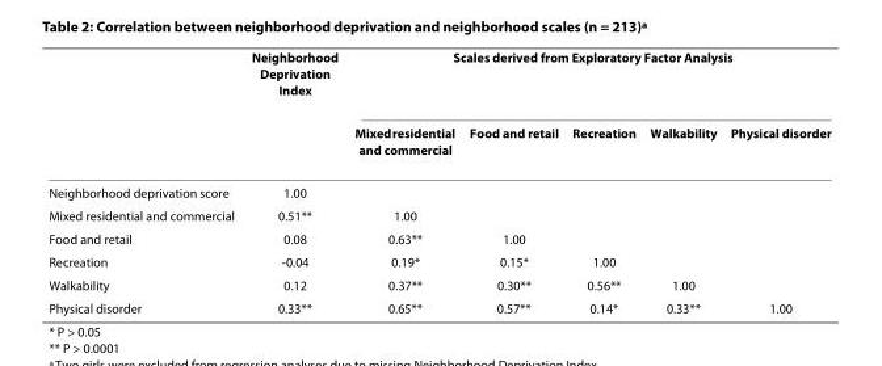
<table><thead><tr><td rowspan="2"></td><td rowspan="2">Neighborhood Deprivation Index</td><td colspan="5">Scales derived from Exploratory Factor Analysis</td></tr><tr><td>Mixed residential and commercial</td><td>Food and retail</td><td>Recreation</td><td>Walkability</td><td>Physical disorder</td></tr></thead><tbody><tr><td>Neighborhood deprivation score</td><td>1.00</td><td></td><td></td><td></td><td></td><td></td></tr><tr><td>Mixed residential and commercial</td><td>0.51**</td><td>1.00</td><td></td><td></td><td></td><td></td></tr><tr><td>Food and retail</td><td>0.08</td><td>0.63**</td><td>1.00</td><td></td><td></td><td></td></tr><tr><td>Recreation</td><td>-0.04</td><td>0.19*</td><td>0.15*</td><td>1.00</td><td></td><td></td></tr><tr><td>Walkability</td><td>0.12</td><td>0.37**</td><td>0.30**</td><td>0.56**</td><td>1.00</td><td></td></tr><tr><td>Physical disorder</td><td>0.33**</td><td>0.65**</td><td>0.57**</td><td>0.14*</td><td>0.33**</td><td>1.00</td></tr></tbody></table>